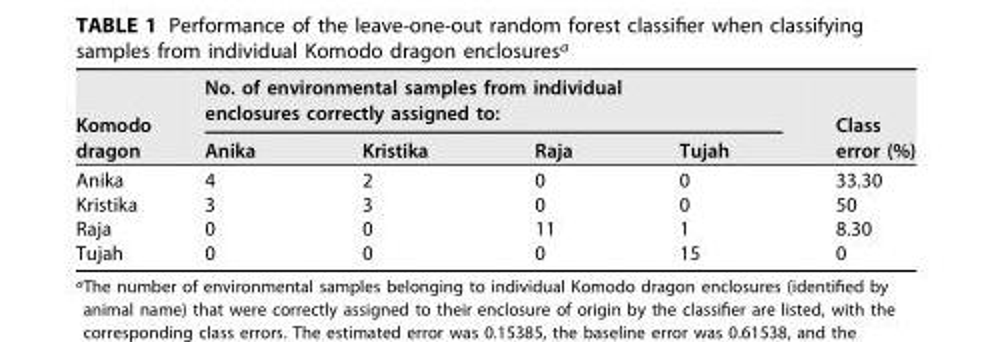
<table><thead><tr><td rowspan="2">Komodo dragon</td><td colspan="4">No. of environmental samples from individual enclosures correctly assigned to:</td><td rowspan="2">Class error (%)</td></tr><tr><td>Anika</td><td>Kristika</td><td>Raja</td><td>Tujah</td></tr></thead><tbody><tr><td>Anika</td><td>4</td><td>2</td><td>0</td><td>0</td><td>33.30</td></tr><tr><td>Kristika</td><td>3</td><td>3</td><td>0</td><td>0</td><td>50</td></tr><tr><td>Raja</td><td>0</td><td>0</td><td>11</td><td>1</td><td>8.30</td></tr><tr><td>Tujah</td><td>0</td><td>0</td><td>0</td><td>15</td><td>0</td></tr></tbody></table>